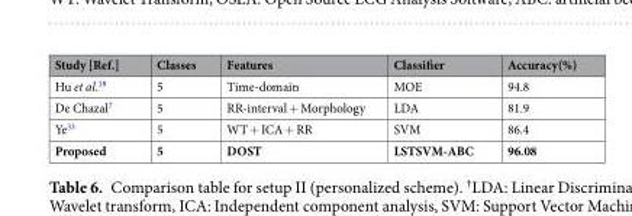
<table><thead><tr><td>Study [Ref.]</td><td>Classes</td><td>Features</td><td>Classifier</td><td>Accuracy(%)</td></tr></thead><tbody><tr><td>Hu et al.<sup>18</sup></td><td>5</td><td>Time-domain</td><td>MOE</td><td>94.8</td></tr><tr><td>De Chazal<sup>7</sup></td><td>5</td><td>RR-interval + Morphology</td><td>LDA</td><td>81.9</td></tr><tr><td>Ye<sup>33</sup></td><td>5</td><td>WT + ICA + RR</td><td>SVM</td><td>86.4</td></tr><tr><td>Proposed</td><td>5</td><td>DOST</td><td>LSTSVM-ABC</td><td>96.08</td></tr></tbody></table>